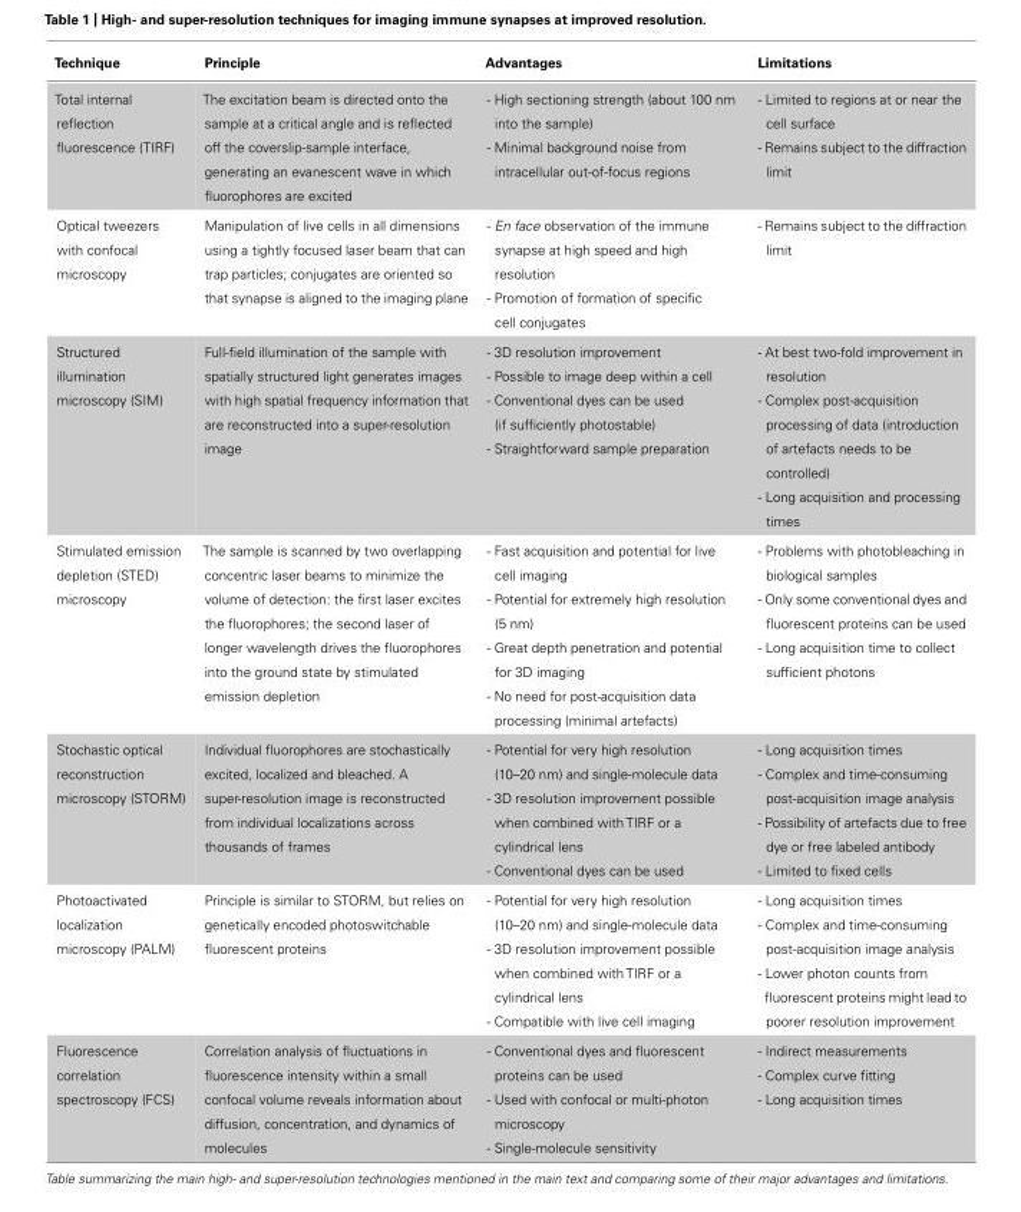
<table><thead><tr><td>Technique</td><td>Principle</td><td>Advantages</td><td>Limitations</td></tr></thead><tbody><tr><td>Total internal reflection fluorescence (TIRF)</td><td>The excitation beam is directed onto the sample at a critical angle and is reflected off the coverslip-sample interface, generating an evanescent wave in which fluorophores are excited</td><td>- High sectioning strength (about 100 nm into the sample) - Minimal background noise from intracellular out-of-focus regions</td><td>- Limited to regions at or near the cell surface - Remains subject to the diffraction limit</td></tr><tr><td>Optical tweezers with confocal microscopy</td><td>Manipulation of live cells in all dimensions using a tightly focused laser beam that can trap particles; conjugates are oriented so that synapse is aligned to the imaging plane</td><td>- En face observation of the immune synapse at high speed and high resolution - Promotion of formation of specific cell conjugates</td><td>- Remains subject to the diffraction limit</td></tr><tr><td>Structured illumination microscopy (SIM)</td><td>Full-field illumination of the sample with spatially structured light generates images with high spatial frequency information that are reconstructed into a super-resolution image</td><td>- 3D resolution improvement - Possible to image deep within a cell - Conventional dyes can be used (if sufficiently photostable) - Straightforward sample preparation</td><td>- At best two-fold improvement in resolution - Complex post-acquisition processing of data (introduction of artefacts needs to be controlled) - Long acquisition and processing times</td></tr><tr><td>Stimulated emission depletion (STED) microscopy</td><td>The sample is scanned by two overlapping concentric laser beams to minimize the volume of detection: the first laser excites the fluorophores; the second laser of longer wavelength drives the fluorophores into the ground state by stimulated emission depletion</td><td>- Fast acquisition and potential for live cell imaging - Potential for extremely high resolution (5 nm) - Great depth penetration and potential for 3D imaging - No need for post-acquisition data processing (minimal artefacts)</td><td>- Problems with photobleaching in biological samples - Only some conventional dyes and fluorescent proteins can be used - Long acquisition time to collect sufficient photons</td></tr><tr><td>Stochastic optical reconstruction microscopy (STORM)</td><td>Individual fluorophores are stochastically excited, localized and bleached. A super-resolution image is reconstructed from individual localizations across thousands of frames</td><td>- Potential for very high resolution (10–20 nm) and single-molecule data - 3D resolution improvement possible when combined with TIRF or a cylindrical lens - Conventional dyes can be used</td><td>- Long acquisition times - Complex and time-consuming post-acquisition image analysis - Possibility of artefacts due to free dye or free labeled antibody - Limited to fixed cells</td></tr><tr><td>Photoactivated localization microscopy (PALM)</td><td>Principle is similar to STORM, but relies on genetically encoded photoswitchable fluorescent proteins</td><td>- Potential for very high resolution (10–20 nm) and single-molecule data - 3D resolution improvement possible when combined with TIRF or a cylindrical lens - Compatible with live cell imaging</td><td>- Long acquisition times - Complex and time-consuming post-acquisition image analysis - Lower photon counts from fluorescent proteins might lead to poorer resolution improvement</td></tr><tr><td>Fluorescence correlation spectroscopy (FCS)</td><td>Correlation analysis of fluctuations in fluorescence intensity within a small confocal volume reveals information about diffusion, concentration, and dynamics of molecules</td><td>- Conventional dyes and fluorescent proteins can be used - Used with confocal or multi-photon microscopy - Single-molecule sensitivity</td><td>- Indirect measurements - Complex curve fitting - Long acquisition times</td></tr></tbody></table>